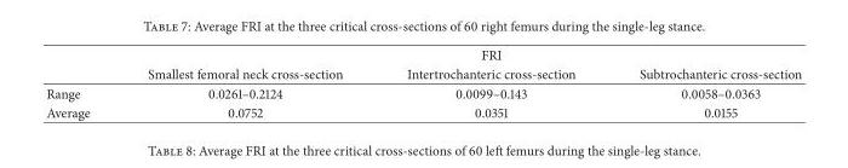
<table><thead><tr><td rowspan="2"></td><td rowspan="2">Smallest femoral neck cross-section</td><td rowspan="2">FRI Intertrochanteric cross-section</td><td rowspan="2">Subtrochanteric cross-section</td></tr><tr></tr></thead><tbody><tr><td>Range</td><td>0.0261–0.2124</td><td>0.0099–0.143</td><td>0.0058–0.0363</td></tr><tr><td>Average</td><td>0.0752</td><td>0.0351</td><td>0.0155</td></tr></tbody></table>